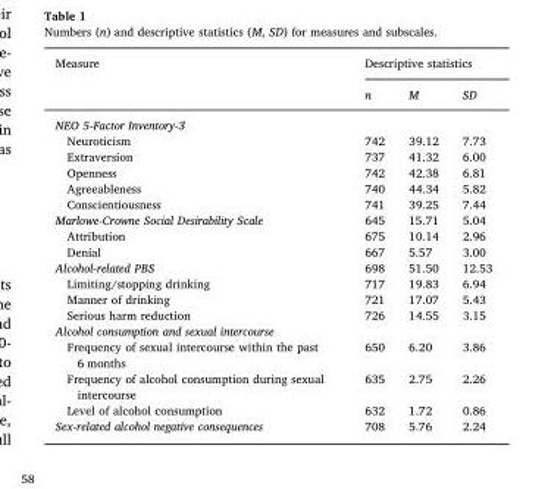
<table><thead><tr><td rowspan="2">Measure</td><td colspan="3">Descriptive statistics</td></tr><tr><td>n</td><td>M</td><td>SD</td></tr></thead><tbody><tr><td colspan="4">NEO 5-Factor Inventory-3</td></tr><tr><td>Neuroticism</td><td>742</td><td>39.12</td><td>7.73</td></tr><tr><td>Extraversion</td><td>737</td><td>41.32</td><td>6.00</td></tr><tr><td>Openness</td><td>742</td><td>42.38</td><td>6.81</td></tr><tr><td>Agreeableness</td><td>740</td><td>44.34</td><td>5.82</td></tr><tr><td>Conscientiousness</td><td>741</td><td>39.25</td><td>7.44</td></tr><tr><td>Marlowe-Crowne Social Desirability Scale</td><td>645</td><td>15.71</td><td>5.04</td></tr><tr><td>Attribution</td><td>675</td><td>10.14</td><td>2.96</td></tr><tr><td>Denial</td><td>667</td><td>5.57</td><td>3.00</td></tr><tr><td>Alcohol-related PBS</td><td>698</td><td>51.50</td><td>12.53</td></tr><tr><td>Limiting/stopping drinking</td><td>717</td><td>19.83</td><td>6.94</td></tr><tr><td>Manner of drinking</td><td>721</td><td>17.07</td><td>5.43</td></tr><tr><td>Serious harm reduction</td><td>726</td><td>14.55</td><td>3.15</td></tr><tr><td colspan="4">Alcohol consumption and sexual intercourse</td></tr><tr><td>Frequency of sexual intercourse within the past 6 months</td><td>650</td><td>6.20</td><td>3.86</td></tr><tr><td>Frequency of alcohol consumption during sexual intercourse</td><td>635</td><td>2.75</td><td>2.26</td></tr><tr><td>Level of alcohol consumption</td><td>632</td><td>1.72</td><td>0.86</td></tr><tr><td>Sex-related alcohol negative consequences</td><td>708</td><td>5.76</td><td>2.24</td></tr></tbody></table>